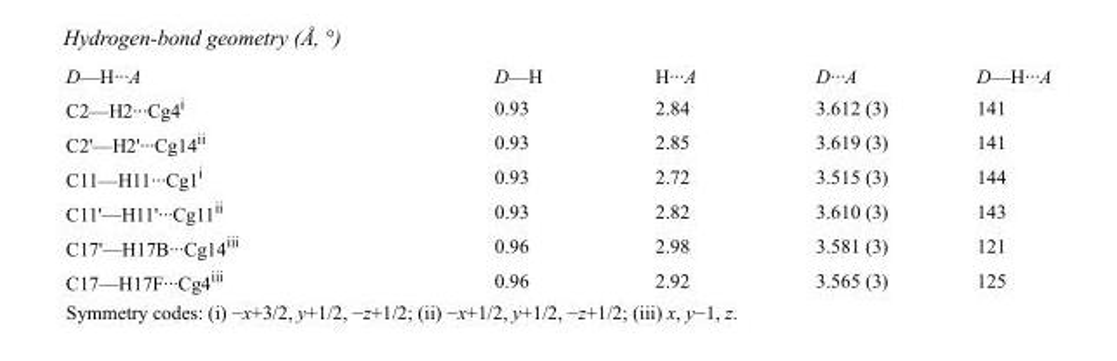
<table><tbody><tr><td>D—H···A</td><td>D—H</td><td>H···A</td><td>D···A</td><td>D—H···A</td></tr><tr><td>C2—H2···Cg4<sup>i</sup></td><td>0.93</td><td>2.84</td><td>3.612 (3)</td><td>141</td></tr><tr><td>C2&#x27;—H2&#x27;···Cg14<sup>ii</sup></td><td>0.93</td><td>2.85</td><td>3.619 (3)</td><td>141</td></tr><tr><td>C11—H11···Cg1<sup>i</sup></td><td>0.93</td><td>2.72</td><td>3.515 (3)</td><td>144</td></tr><tr><td>C11&#x27;—H11&#x27;···Cg11<sup>ii</sup></td><td>0.93</td><td>2.82</td><td>3.610 (3)</td><td>143</td></tr><tr><td>C17&#x27;—H17B···Cg14<sup>iii</sup></td><td>0.96</td><td>2.98</td><td>3.581 (3)</td><td>121</td></tr><tr><td>C17—H17F···Cg4<sup>iii</sup></td><td>0.96</td><td>2.92</td><td>3.565 (3)</td><td>125</td></tr></tbody></table>